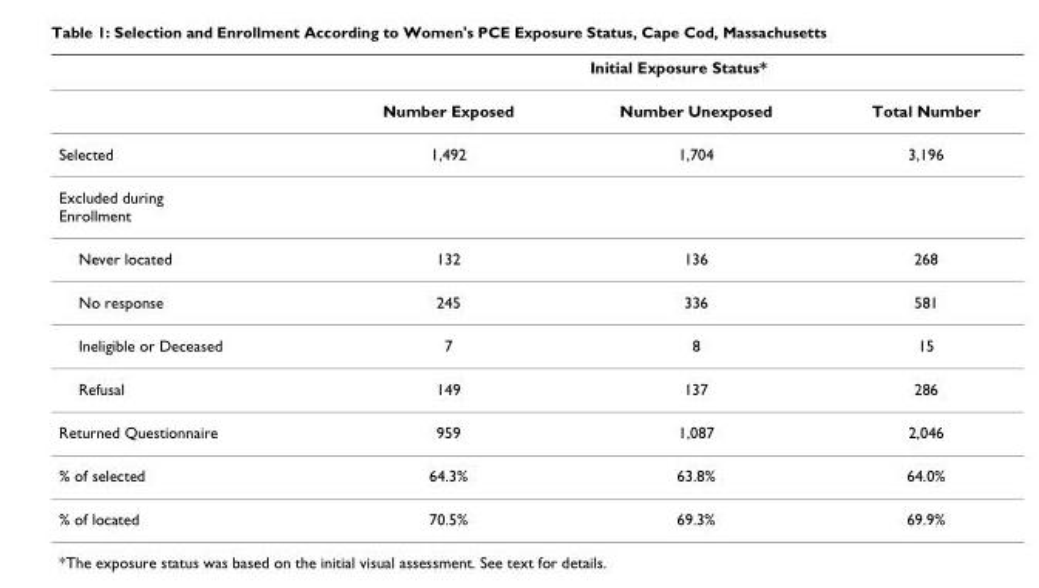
<table><thead><tr><td rowspan="2"></td><td colspan="3">Initial Exposure Status*</td></tr><tr><td>Number Exposed</td><td>Number Unexposed</td><td>Total Number</td></tr></thead><tbody><tr><td>Selected</td><td>1,492</td><td>1,704</td><td>3,196</td></tr><tr><td colspan="4">Excluded during Enrollment</td></tr><tr><td>Never located</td><td>132</td><td>136</td><td>268</td></tr><tr><td>No response</td><td>245</td><td>336</td><td>581</td></tr><tr><td>Ineligible or Deceased</td><td>7</td><td>8</td><td>15</td></tr><tr><td>Refusal</td><td>149</td><td>137</td><td>286</td></tr><tr><td>Returned Questionnaire</td><td>959</td><td>1,087</td><td>2,046</td></tr><tr><td>% of selected</td><td>64.3%</td><td>63.8%</td><td>64.0%</td></tr><tr><td>% of located</td><td>70.5%</td><td>69.3%</td><td>69.9%</td></tr></tbody></table>